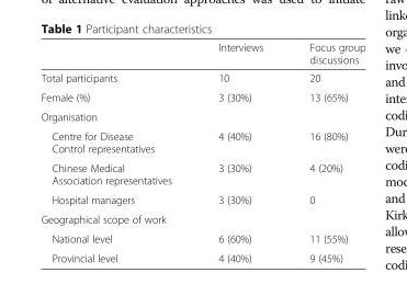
<table><thead><tr><td></td><td>Interviews</td><td>Focus group discussions</td></tr></thead><tbody><tr><td>Total participants</td><td>10</td><td>20</td></tr><tr><td>Female (%)</td><td>3 (30%)</td><td>13 (65%)</td></tr><tr><td colspan="3">Organisation</td></tr><tr><td>Centre for Disease Control representatives</td><td>4 (40%)</td><td>16 (80%)</td></tr><tr><td>Chinese Medical Association representatives</td><td>3 (30%)</td><td>4 (20%)</td></tr><tr><td>Hospital managers</td><td>3 (30%)</td><td>0</td></tr><tr><td colspan="3">Geographical scope of work</td></tr><tr><td>National level</td><td>6 (60%)</td><td>11 (55%)</td></tr><tr><td>Provincial level</td><td>4 (40%)</td><td>9 (45%)</td></tr></tbody></table>